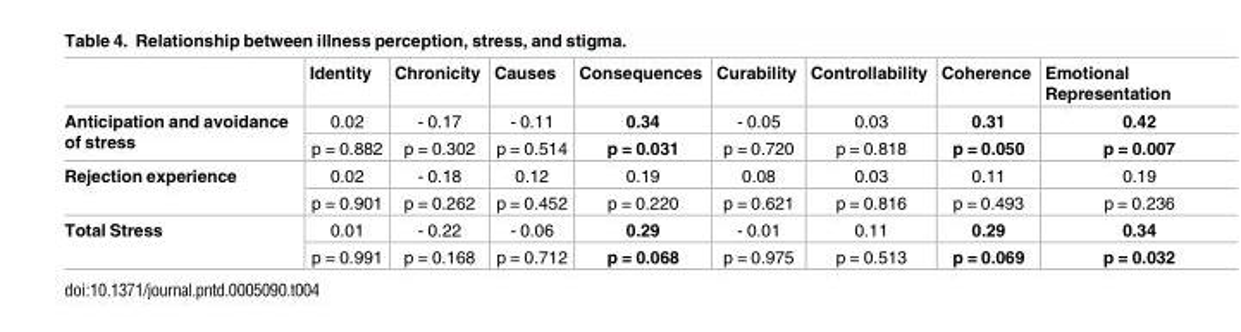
<table><thead><tr><td></td><td>Identity</td><td>Chronicity</td><td>Causes</td><td>Consequences</td><td>Curability</td><td>Controllability</td><td>Coherence</td><td>Emotional Representation</td></tr></thead><tbody><tr><td rowspan="2">Anticipation and avoidance of stress</td><td>0.02</td><td>- 0.17</td><td>- 0.11</td><td>0.34</td><td>- 0.05</td><td>0.03</td><td>0.31</td><td>0.42</td></tr><tr><td>p = 0.882</td><td>p = 0.302</td><td>p = 0.514</td><td>p = 0.031</td><td>p = 0.720</td><td>p = 0.818</td><td>p = 0.050</td><td>p = 0.007</td></tr><tr><td rowspan="2">Rejection experience</td><td>0.02</td><td>- 0.18</td><td>0.12</td><td>0.19</td><td>0.08</td><td>0.03</td><td>0.11</td><td>0.19</td></tr><tr><td>p = 0.901</td><td>p = 0.262</td><td>p = 0.452</td><td>p = 0.220</td><td>p = 0.621</td><td>p = 0.816</td><td>p = 0.493</td><td>p = 0.236</td></tr><tr><td rowspan="2">Total Stress</td><td>0.01</td><td>- 0.22</td><td>- 0.06</td><td>0.29</td><td>- 0.01</td><td>0.11</td><td>0.29</td><td>0.34</td></tr><tr><td>p = 0.991</td><td>p = 0.168</td><td>p = 0.712</td><td>p = 0.068</td><td>p = 0.975</td><td>p = 0.513</td><td>p = 0.069</td><td>p = 0.032</td></tr></tbody></table>